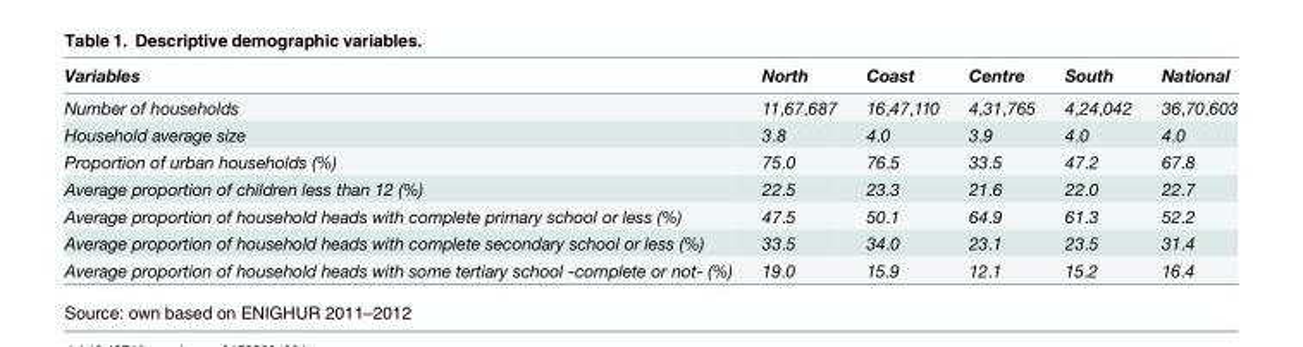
<table><thead><tr><td>Variables</td><td>North</td><td>Coast</td><td>Centre</td><td>South</td><td>National</td></tr></thead><tbody><tr><td>Number of households</td><td>11,67,687</td><td>16,47,110</td><td>4,31,765</td><td>4,24,042</td><td>36,70,603</td></tr><tr><td>Household average size</td><td>3.8</td><td>4.0</td><td>3.9</td><td>4.0</td><td>4.0</td></tr><tr><td>Proportion of urban households (%)</td><td>75.0</td><td>76.5</td><td>33.5</td><td>47.2</td><td>67.8</td></tr><tr><td>Average proportion of children less than 12 (%)</td><td>22.5</td><td>23.3</td><td>21.6</td><td>22.0</td><td>22.7</td></tr><tr><td>Average proportion of household heads with complete primary school or less (%)</td><td>47.5</td><td>50.1</td><td>64.9</td><td>61.3</td><td>52.2</td></tr><tr><td>Average proportion of household heads with complete secondary school or less (%)</td><td>33.5</td><td>34.0</td><td>23.1</td><td>23.5</td><td>31.4</td></tr><tr><td>Average proportion of household heads with some tertiary school -complete or not- (%)</td><td>19.0</td><td>15.9</td><td>12.1</td><td>15.2</td><td>16.4</td></tr></tbody></table>